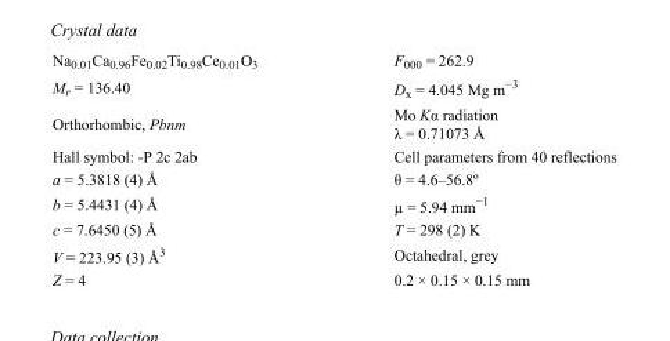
<table><tbody><tr><td>Na<sub>0.01</sub>Ca<sub>0.96</sub>Fe<sub>0.02</sub>Ti<sub>0.98</sub>Ce<sub>0.01</sub>O<sub>3</sub></td><td>F<sub>000</sub> = 262.9</td></tr><tr><td>M<sub>r</sub> = 136.40</td><td>D<sub>x</sub> = 4.045 Mg m<sup>−3</sup></td></tr><tr><td>Orthorhombic, Pbnm</td><td>Mo Kα radiation λ = 0.71073 Å</td></tr><tr><td>Hall symbol: -P 2c 2ab</td><td>Cell parameters from 40 reflections</td></tr><tr><td>a = 5.3818 (4) Å</td><td>θ = 4.6–56.8º</td></tr><tr><td>b = 5.4431 (4) Å</td><td>µ = 5.94 mm<sup>−1</sup></td></tr><tr><td>c = 7.6450 (5) Å</td><td>T = 298 (2) K</td></tr><tr><td>V = 223.95 (3) Å<sup>3</sup></td><td>Octahedral, grey</td></tr><tr><td>Z = 4</td><td>0.2 × 0.15 × 0.15 mm</td></tr></tbody></table>